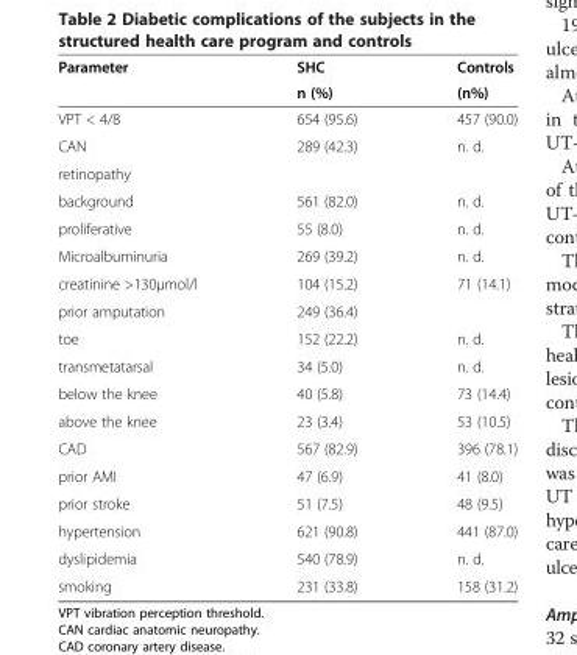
<table><thead><tr><td rowspan="2">Parameter</td><td rowspan="2">SHC n (%)</td><td rowspan="2">Controls (n%)</td></tr><tr></tr></thead><tbody><tr><td>VPT &lt; 4/8</td><td>654 (95.6)</td><td>457 (90.0)</td></tr><tr><td>CAN</td><td>289 (42.3)</td><td>n. d.</td></tr><tr><td colspan="3">retinopathy</td></tr><tr><td>background</td><td>561 (82.0)</td><td>n. d.</td></tr><tr><td>proliferative</td><td>55 (8.0)</td><td>n. d.</td></tr><tr><td>Microalbuminuria</td><td>269 (39.2)</td><td>n. d.</td></tr><tr><td>creatinine &gt;130μmol/l</td><td>104 (15.2)</td><td>71 (14.1)</td></tr><tr><td>prior amputation</td><td>249 (36.4)</td><td></td></tr><tr><td>toe</td><td>152 (22.2)</td><td>n. d.</td></tr><tr><td>transmetatarsal</td><td>34 (5.0)</td><td>n. d.</td></tr><tr><td>below the knee</td><td>40 (5.8)</td><td>73 (14.4)</td></tr><tr><td>above the knee</td><td>23 (3.4)</td><td>53 (10.5)</td></tr><tr><td>CAD</td><td>567 (82.9)</td><td>396 (78.1)</td></tr><tr><td>prior AMI</td><td>47 (6.9)</td><td>41 (8.0)</td></tr><tr><td>prior stroke</td><td>51 (7.5)</td><td>48 (9.5)</td></tr><tr><td>hypertension</td><td>621 (90.8)</td><td>441 (87.0)</td></tr><tr><td>dyslipidemia</td><td>540 (78.9)</td><td>n. d.</td></tr><tr><td>smoking</td><td>231 (33.8)</td><td>158 (31.2)</td></tr></tbody></table>